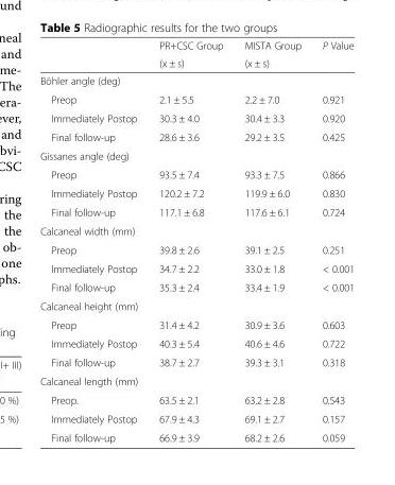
<table><thead><tr><td rowspan="2"></td><td rowspan="2">PR+CSC Group (x ± s)</td><td rowspan="2">MISTA Group (x ± s)</td><td rowspan="2">P Value</td></tr><tr></tr></thead><tbody><tr><td colspan="4">Böhler angle (deg)</td></tr><tr><td>Preop</td><td>2.1 ± 5.5</td><td>2.2 ± 7.0</td><td>0.921</td></tr><tr><td>Immediately Postop</td><td>30.3 ± 4.0</td><td>30.4 ± 3.3</td><td>0.920</td></tr><tr><td>Final follow-up</td><td>28.6 ± 3.6</td><td>29.2 ± 3.5</td><td>0.425</td></tr><tr><td colspan="4">Gissanes angle (deg)</td></tr><tr><td>Preop</td><td>93.5 ± 7.4</td><td>93.3 ± 7.5</td><td>0.866</td></tr><tr><td>Immediately Postop</td><td>120.2 ± 7.2</td><td>119.9 ± 6.0</td><td>0.830</td></tr><tr><td>Final follow-up</td><td>117.1 ± 6.8</td><td>117.6 ± 6.1</td><td>0.724</td></tr><tr><td colspan="4">Calcaneal width (mm)</td></tr><tr><td>Preop</td><td>39.8 ± 2.6</td><td>39.1 ± 2.5</td><td>0.251</td></tr><tr><td>Immediately Postop</td><td>34.7 ± 2.2</td><td>33.0 ± 1.8</td><td>&lt; 0.001</td></tr><tr><td>Final follow-up</td><td>35.3 ± 2.4</td><td>33.4 ± 1.9</td><td>&lt; 0.001</td></tr><tr><td colspan="4">Calcaneal height (mm)</td></tr><tr><td>Preop</td><td>31.4 ± 4.2</td><td>30.9 ± 3.6</td><td>0.603</td></tr><tr><td>Immediately Postop</td><td>40.3 ± 5.4</td><td>40.6 ± 4.6</td><td>0.722</td></tr><tr><td>Final follow-up</td><td>38.7 ± 2.7</td><td>39.3 ± 3.1</td><td>0.318</td></tr><tr><td colspan="4">Calcaneal length (mm)</td></tr><tr><td>Preop.</td><td>63.5 ± 2.1</td><td>63.2 ± 2.8</td><td>0.543</td></tr><tr><td>Immediately Postop</td><td>67.9 ± 4.3</td><td>69.1 ± 2.7</td><td>0.157</td></tr><tr><td>Final follow-up</td><td>66.9 ± 3.9</td><td>68.2 ± 2.6</td><td>0.059</td></tr></tbody></table>